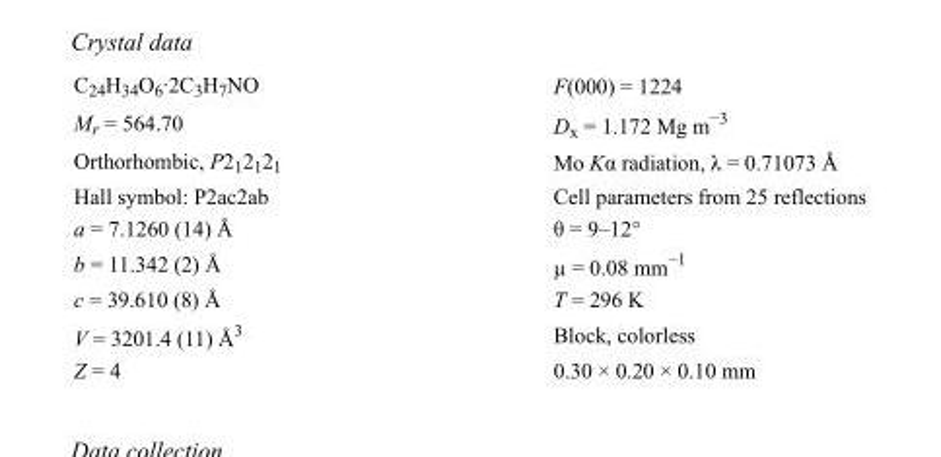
<table><tbody><tr><td>C<sub>24</sub>H<sub>34</sub>O<sub>6</sub>·2C<sub>3</sub>H<sub>7</sub>NO</td><td>F(000) = 1224</td></tr><tr><td>M<sub>r</sub> = 564.70</td><td>D<sub>x</sub> = 1.172 Mg m<sup>−3</sup></td></tr><tr><td>Orthorhombic, P2<sub>1</sub>2<sub>1</sub>2<sub>1</sub></td><td>Mo Kα radiation, λ = 0.71073 Å</td></tr><tr><td>Hall symbol: P2ac2ab</td><td>Cell parameters from 25 reflections</td></tr><tr><td>a = 7.1260 (14) Å</td><td>θ = 9–12°</td></tr><tr><td>b = 11.342 (2) Å</td><td>µ = 0.08 mm<sup>−1</sup></td></tr><tr><td>c = 39.610 (8) Å</td><td>T = 296 K</td></tr><tr><td>V = 3201.4 (11) Å<sup>3</sup></td><td>Block, colorless</td></tr><tr><td>Z = 4</td><td>0.30 × 0.20 × 0.10 mm</td></tr></tbody></table>